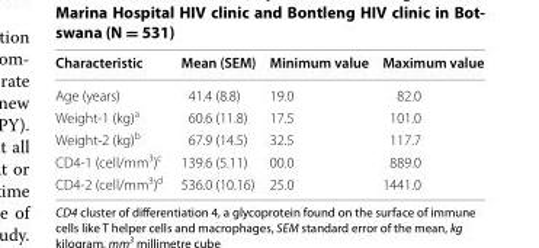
<table><thead><tr><td>Characteristic</td><td>Mean (SEM)</td><td>Minimum value</td><td>Maximum value</td></tr></thead><tbody><tr><td>Age (years)</td><td>41.4 (8.8)</td><td>19.0</td><td>82.0</td></tr><tr><td>Weight‑1 (kg)<sup>a</sup></td><td>60.6 (11.8)</td><td>17.5</td><td>101.0</td></tr><tr><td>Weight‑2 (kg)<sup>b</sup></td><td>67.9 (14.5)</td><td>32.5</td><td>117.7</td></tr><tr><td>CD4‑1 (cell/mm<sup>3</sup>)<sup>c</sup></td><td>139.6 (5.11)</td><td>00.0</td><td>889.0</td></tr><tr><td>CD4‑2 (cell/mm<sup>3</sup>)<sup>d</sup></td><td>536.0 (10.16)</td><td>25.0</td><td>1441.0</td></tr></tbody></table>